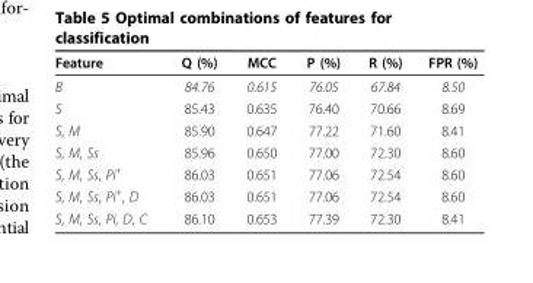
<table><thead><tr><td>Feature</td><td>Q (%)</td><td>MCC</td><td>P (%)</td><td>R (%)</td><td>FPR (%)</td></tr></thead><tbody><tr><td>B</td><td>84.76</td><td>0.615</td><td>76.05</td><td>67.84</td><td>8.50</td></tr><tr><td>S</td><td>85.43</td><td>0.635</td><td>76.40</td><td>70.66</td><td>8.69</td></tr><tr><td>S, M</td><td>85.90</td><td>0.647</td><td>77.22</td><td>71.60</td><td>8.41</td></tr><tr><td>S, M, Ss</td><td>85.96</td><td>0.650</td><td>77.00</td><td>72.30</td><td>8.60</td></tr><tr><td>S, M, Ss, Pi<sup>+</sup></td><td>86.03</td><td>0.651</td><td>77.06</td><td>72.54</td><td>8.60</td></tr><tr><td>S, M, Ss, Pi<sup>+</sup>, D</td><td>86.03</td><td>0.651</td><td>77.06</td><td>72.54</td><td>8.60</td></tr><tr><td>S, M, Ss, Pi, D, C</td><td>86.10</td><td>0.653</td><td>77.39</td><td>72.30</td><td>8.41</td></tr></tbody></table>